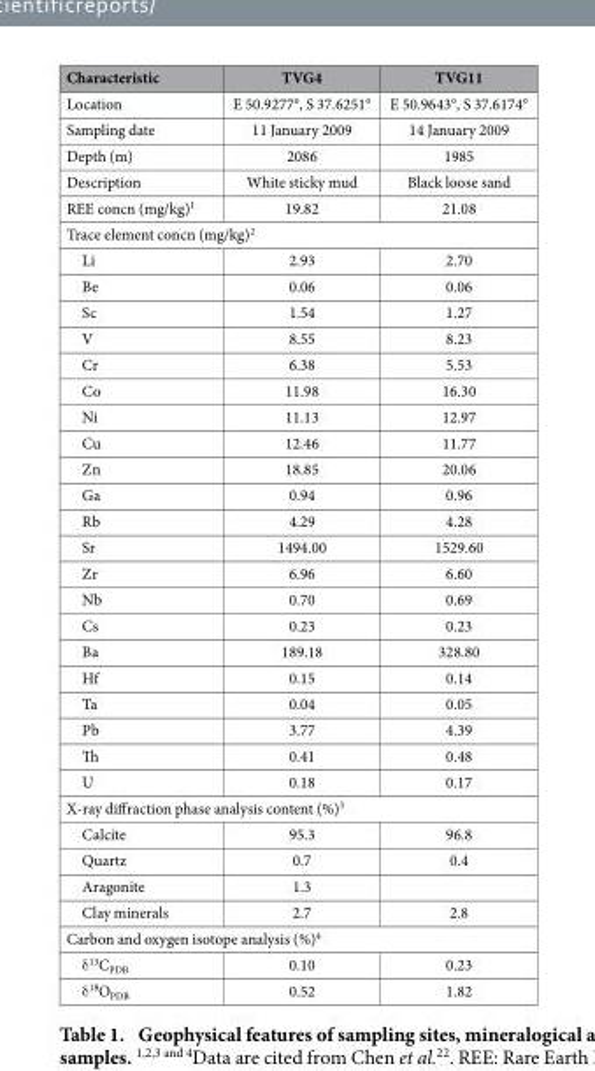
<table><thead><tr><td>Characteristic</td><td>TVG4</td><td>TVG11</td></tr></thead><tbody><tr><td>Location</td><td>E 50.9277°, S 37.6251°</td><td>E 50.9643°, S 37.6174°</td></tr><tr><td>Sampling date</td><td>11 January 2009</td><td>14 January 2009</td></tr><tr><td>Depth (m)</td><td>2086</td><td>1985</td></tr><tr><td>Description</td><td>White sticky mud</td><td>Black loose sand</td></tr><tr><td>REE concn (mg/kg)<sup>1</sup></td><td>19.82</td><td>21.08</td></tr><tr><td colspan="3">Trace element concn (mg/kg)<sup>2</sup></td></tr><tr><td>Li</td><td>2.93</td><td>2.70</td></tr><tr><td>Be</td><td>0.06</td><td>0.06</td></tr><tr><td>Sc</td><td>1.54</td><td>1.27</td></tr><tr><td>V</td><td>8.55</td><td>8.23</td></tr><tr><td>Cr</td><td>6.38</td><td>5.53</td></tr><tr><td>Co</td><td>11.98</td><td>16.30</td></tr><tr><td>Ni</td><td>11.13</td><td>12.97</td></tr><tr><td>Cu</td><td>12.46</td><td>11.77</td></tr><tr><td>Zn</td><td>18.85</td><td>20.06</td></tr><tr><td>Ga</td><td>0.94</td><td>0.96</td></tr><tr><td>Rb</td><td>4.29</td><td>4.28</td></tr><tr><td>Sr</td><td>1494.00</td><td>1529.60</td></tr><tr><td>Zr</td><td>6.96</td><td>6.60</td></tr><tr><td>Nb</td><td>0.70</td><td>0.69</td></tr><tr><td>Cs</td><td>0.23</td><td>0.23</td></tr><tr><td>Ba</td><td>189.18</td><td>328.80</td></tr><tr><td>Hf</td><td>0.15</td><td>0.14</td></tr><tr><td>Ta</td><td>0.04</td><td>0.05</td></tr><tr><td>Pb</td><td>3.77</td><td>4.39</td></tr><tr><td>Th</td><td>0.41</td><td>0.48</td></tr><tr><td>U</td><td>0.18</td><td>0.17</td></tr><tr><td colspan="3">X-ray diffraction phase analysis content (%)<sup>3</sup></td></tr><tr><td>Calcite</td><td>95.3</td><td>96.8</td></tr><tr><td>Quartz</td><td>0.7</td><td>0.4</td></tr><tr><td>Aragonite</td><td>1.3</td><td></td></tr><tr><td>Clay minerals</td><td>2.7</td><td>2.8</td></tr><tr><td colspan="3">Carbon and oxygen isotope analysis (%)<sup>4</sup></td></tr><tr><td>δ <sup>13</sup>C<sub>PDB</sub></td><td>0.10</td><td>0.23</td></tr><tr><td>δ <sup>18</sup>O<sub>PDB</sub></td><td>0.52</td><td>1.82</td></tr></tbody></table>